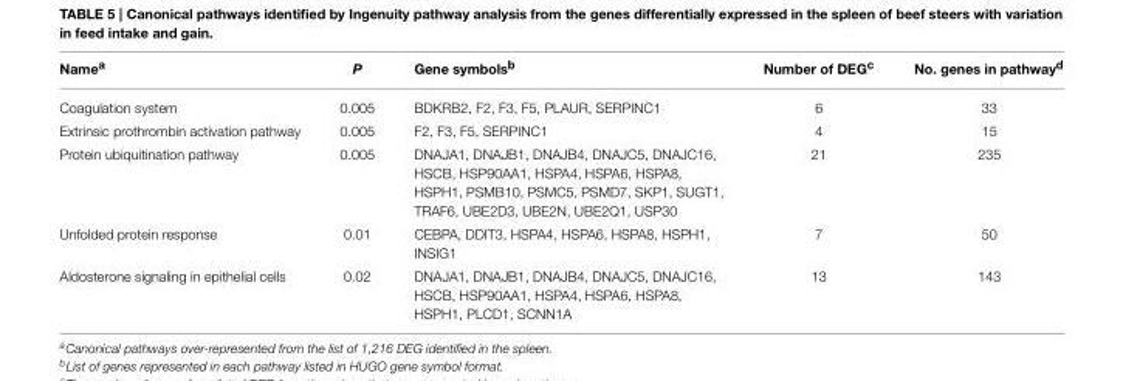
<table><thead><tr><td>Name<sup>a</sup></td><td>P</td><td>Gene symbols<sup>b</sup></td><td>Number of DEG<sup>c</sup></td><td>No. genes in pathway<sup>d</sup></td></tr></thead><tbody><tr><td>Coagulation system</td><td>0.005</td><td>BDKRB2, F2, F3, F5, PLAUR, SERPINC1</td><td>6</td><td>33</td></tr><tr><td>Extrinsic prothrombin activation pathway</td><td>0.005</td><td>F2, F3, F5, SERPINC1</td><td>4</td><td>15</td></tr><tr><td>Protein ubiquitination pathway</td><td>0.005</td><td>DNAJA1, DNAJB1, DNAJB4, DNAJC5, DNAJC16, HSCB, HSP90AA1, HSPA4, HSPA6, HSPA8, HSPH1, PSMB10, PSMC5, PSMD7, SKP1, SUGT1, TRAF6, UBE2D3, UBE2N, UBE2Q1, USP30</td><td>21</td><td>235</td></tr><tr><td>Unfolded protein response</td><td>0.01</td><td>CEBPA, DDIT3, HSPA4, HSPA6, HSPA8, HSPH1, INSIG1</td><td>7</td><td>50</td></tr><tr><td>Aldosterone signaling in epithelial cells</td><td>0.02</td><td>DNAJA1, DNAJB1, DNAJB4, DNAJC5, DNAJC16, HSCB, HSP90AA1, HSPA4, HSPA6, HSPA8, HSPH1, PLCD1, SCNN1A</td><td>13</td><td>143</td></tr></tbody></table>